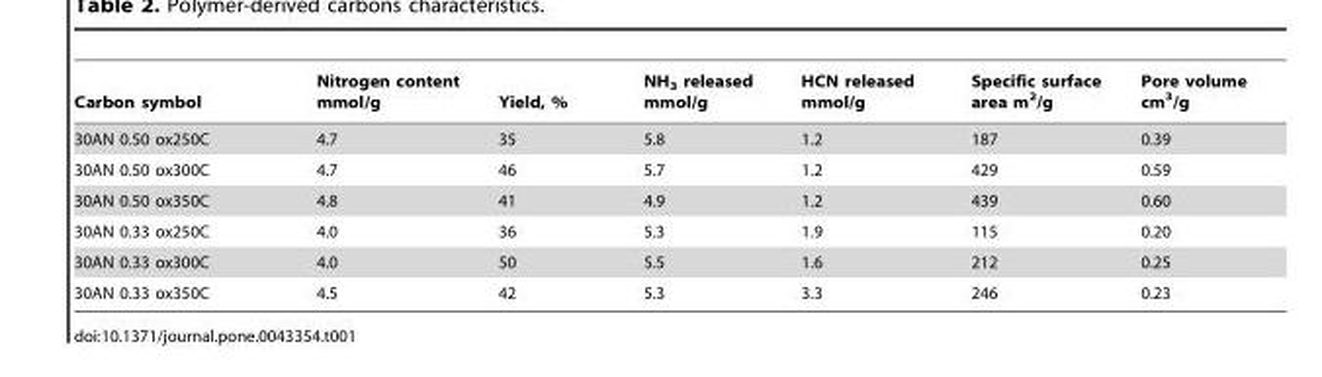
<table><thead><tr><td>Carbon symbol</td><td>Nitrogen content mmol/g</td><td>Yield, %</td><td>NH<sub>3</sub> released mmol/g</td><td>HCN released mmol/g</td><td>Specific surface area m<sup>2</sup>/g</td><td>Pore volume cm<sup>3</sup>/g</td></tr></thead><tbody><tr><td>30AN 0.50 ox250C</td><td>4.7</td><td>35</td><td>5.8</td><td>1.2</td><td>187</td><td>0.39</td></tr><tr><td>30AN 0.50 ox300C</td><td>4.7</td><td>46</td><td>5.7</td><td>1.2</td><td>429</td><td>0.59</td></tr><tr><td>30AN 0.50 ox350C</td><td>4.8</td><td>41</td><td>4.9</td><td>1.2</td><td>439</td><td>0.60</td></tr><tr><td>30AN 0.33 ox250C</td><td>4.0</td><td>36</td><td>5.3</td><td>1.9</td><td>115</td><td>0.20</td></tr><tr><td>30AN 0.33 ox300C</td><td>4.0</td><td>50</td><td>5.5</td><td>1.6</td><td>212</td><td>0.25</td></tr><tr><td>30AN 0.33 ox350C</td><td>4.5</td><td>42</td><td>5.3</td><td>3.3</td><td>246</td><td>0.23</td></tr></tbody></table>